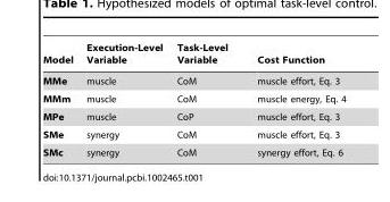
<table><thead><tr><td>Model</td><td>Execution-Level Variable</td><td>Task-Level Variable</td><td>Cost Function</td></tr></thead><tbody><tr><td>MMe</td><td>muscle</td><td>CoM</td><td>muscle effort, Eq. 3</td></tr><tr><td>MMm</td><td>muscle</td><td>CoM</td><td>muscle energy, Eq. 4</td></tr><tr><td>MPe</td><td>muscle</td><td>CoP</td><td>muscle effort, Eq. 3</td></tr><tr><td>SMe</td><td>synergy</td><td>CoM</td><td>muscle effort, Eq. 3</td></tr><tr><td>SMc</td><td>synergy</td><td>CoM</td><td>synergy effort, Eq. 6</td></tr></tbody></table>